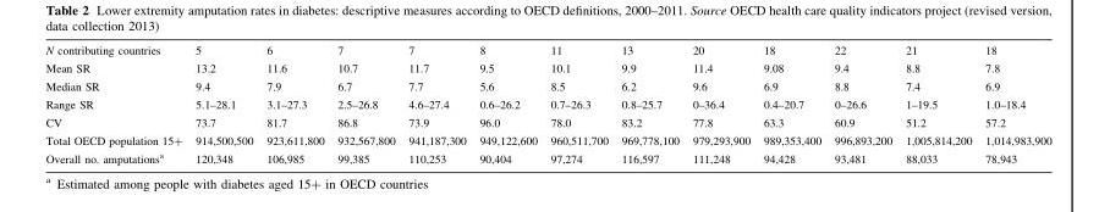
<table><tbody><tr><td>N contributing countries</td><td>5</td><td>6</td><td>7</td><td>7</td><td>8</td><td>11</td><td>13</td><td>20</td><td>18</td><td>22</td><td>21</td><td>18</td></tr><tr><td>Mean SR</td><td>13.2</td><td>11.6</td><td>10.7</td><td>11.7</td><td>9.5</td><td>10.1</td><td>9.9</td><td>11.4</td><td>9.08</td><td>9.4</td><td>8.8</td><td>7.8</td></tr><tr><td>Median SR</td><td>9.4</td><td>7.9</td><td>6.7</td><td>7.7</td><td>5.6</td><td>8.5</td><td>6.2</td><td>9.6</td><td>6.9</td><td>8.8</td><td>7.4</td><td>6.9</td></tr><tr><td>Range SR</td><td>5.1–28.1</td><td>3.1–27.3</td><td>2.5–26.8</td><td>4.6–27.4</td><td>0.6–26.2</td><td>0.7–26.3</td><td>0.8–25.7</td><td>0–36.4</td><td>0.4–20.7</td><td>0–26.6</td><td>1–19.5</td><td>1.0–18.4</td></tr><tr><td>CV</td><td>73.7</td><td>81.7</td><td>86.8</td><td>73.9</td><td>96.0</td><td>78.0</td><td>83.2</td><td>77.8</td><td>63.3</td><td>60.9</td><td>51.2</td><td>57.2</td></tr><tr><td>Total OECD population 15+</td><td>914,500,500</td><td>923,611,800</td><td>932,567,800</td><td>941,187,300</td><td>949,122,600</td><td>960,511,700</td><td>969,778,100</td><td>979,293,900</td><td>989,353,400</td><td>996,893,200</td><td>1,005,814,200</td><td>1,014,983,900</td></tr><tr><td>Overall no. amputations<sup>a</sup></td><td>120,348</td><td>106,985</td><td>99,385</td><td>110,253</td><td>90,404</td><td>97,274</td><td>116,597</td><td>111,248</td><td>94,428</td><td>93,481</td><td>88,033</td><td>78,943</td></tr></tbody></table>